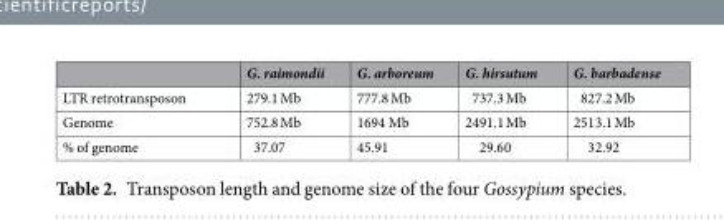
<table><thead><tr><td></td><td>G. raimondii</td><td>G. arboreum</td><td>G. hirsutum</td><td>G. barbadense</td></tr></thead><tbody><tr><td>LTR retrotransposon</td><td>279.1 Mb</td><td>777.8 Mb</td><td>737.3 Mb</td><td>827.2 Mb</td></tr><tr><td>Genome</td><td>752.8 Mb</td><td>1694 Mb</td><td>2491.1 Mb</td><td>2513.1 Mb</td></tr><tr><td>% of genome</td><td>37.07</td><td>45.91</td><td>29.60</td><td>32.92</td></tr></tbody></table>